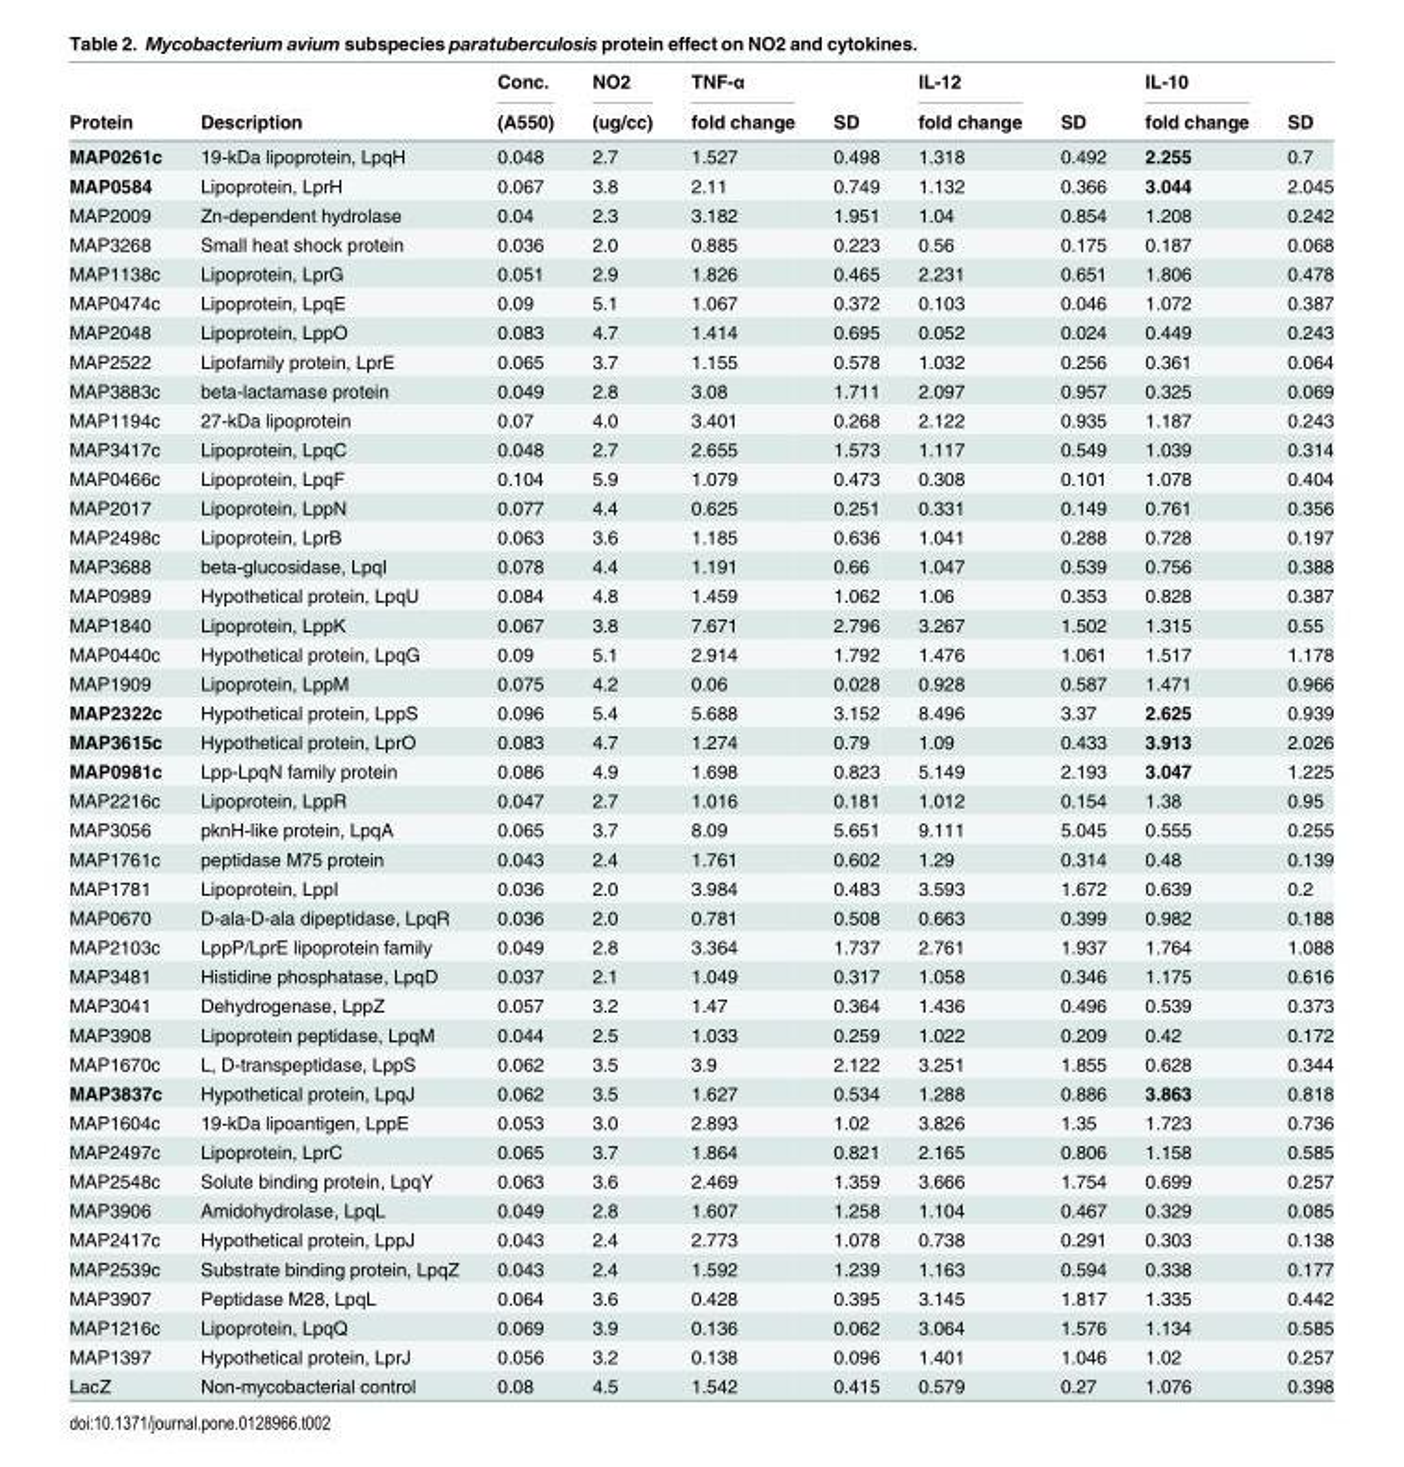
<table><thead><tr><td rowspan="2">Protein</td><td rowspan="2">Description</td><td rowspan="2">Conc. (A550)</td><td rowspan="2">NO2 (ug/cc)</td><td rowspan="2">TNF-α fold change</td><td rowspan="2">SD</td><td rowspan="2">IL-12 fold change</td><td rowspan="2">SD</td><td rowspan="2">IL-10 fold change</td><td rowspan="2">SD</td></tr><tr></tr></thead><tbody><tr><td>MAP0261c</td><td>19-kDa lipoprotein, LpqH</td><td>0.048</td><td>2.7</td><td>1.527</td><td>0.498</td><td>1.318</td><td>0.492</td><td>2.255</td><td>0.7</td></tr><tr><td>MAP0584</td><td>Lipoprotein, LprH</td><td>0.067</td><td>3.8</td><td>2.11</td><td>0.749</td><td>1.132</td><td>0.366</td><td>3.044</td><td>2.045</td></tr><tr><td>MAP2009</td><td>Zn-dependent hydrolase</td><td>0.04</td><td>2.3</td><td>3.182</td><td>1.951</td><td>1.04</td><td>0.854</td><td>1.208</td><td>0.242</td></tr><tr><td>MAP3268</td><td>Small heat shock protein</td><td>0.036</td><td>2.0</td><td>0.885</td><td>0.223</td><td>0.56</td><td>0.175</td><td>0.187</td><td>0.068</td></tr><tr><td>MAP1138c</td><td>Lipoprotein, LprG</td><td>0.051</td><td>2.9</td><td>1.826</td><td>0.465</td><td>2.231</td><td>0.651</td><td>1.806</td><td>0.478</td></tr><tr><td>MAP0474c</td><td>Lipoprotein, LpqE</td><td>0.09</td><td>5.1</td><td>1.067</td><td>0.372</td><td>0.103</td><td>0.046</td><td>1.072</td><td>0.387</td></tr><tr><td>MAP2048</td><td>Lipoprotein, LppO</td><td>0.083</td><td>4.7</td><td>1.414</td><td>0.695</td><td>0.052</td><td>0.024</td><td>0.449</td><td>0.243</td></tr><tr><td>MAP2522</td><td>Lipofamily protein, LprE</td><td>0.065</td><td>3.7</td><td>1.155</td><td>0.578</td><td>1.032</td><td>0.256</td><td>0.361</td><td>0.064</td></tr><tr><td>MAP3883c</td><td>beta-lactamase protein</td><td>0.049</td><td>2.8</td><td>3.08</td><td>1.711</td><td>2.097</td><td>0.957</td><td>0.325</td><td>0.069</td></tr><tr><td>MAP1194c</td><td>27-kDa lipoprotein</td><td>0.07</td><td>4.0</td><td>3.401</td><td>0.268</td><td>2.122</td><td>0.935</td><td>1.187</td><td>0.243</td></tr><tr><td>MAP3417c</td><td>Lipoprotein, LpqC</td><td>0.048</td><td>2.7</td><td>2.655</td><td>1.573</td><td>1.117</td><td>0.549</td><td>1.039</td><td>0.314</td></tr><tr><td>MAP0466c</td><td>Lipoprotein, LpqF</td><td>0.104</td><td>5.9</td><td>1.079</td><td>0.473</td><td>0.308</td><td>0.101</td><td>1.078</td><td>0.404</td></tr><tr><td>MAP2017</td><td>Lipoprotein, LppN</td><td>0.077</td><td>4.4</td><td>0.625</td><td>0.251</td><td>0.331</td><td>0.149</td><td>0.761</td><td>0.356</td></tr><tr><td>MAP2498c</td><td>Lipoprotein, LprB</td><td>0.063</td><td>3.6</td><td>1.185</td><td>0.636</td><td>1.041</td><td>0.288</td><td>0.728</td><td>0.197</td></tr><tr><td>MAP3688</td><td>beta-glucosidase, LpqI</td><td>0.078</td><td>4.4</td><td>1.191</td><td>0.66</td><td>1.047</td><td>0.539</td><td>0.756</td><td>0.388</td></tr><tr><td>MAP0989</td><td>Hypothetical protein, LpqU</td><td>0.084</td><td>4.8</td><td>1.459</td><td>1.062</td><td>1.06</td><td>0.353</td><td>0.828</td><td>0.387</td></tr><tr><td>MAP1840</td><td>Lipoprotein, LppK</td><td>0.067</td><td>3.8</td><td>7.671</td><td>2.796</td><td>3.267</td><td>1.502</td><td>1.315</td><td>0.55</td></tr><tr><td>MAP0440c</td><td>Hypothetical protein, LpqG</td><td>0.09</td><td>5.1</td><td>2.914</td><td>1.792</td><td>1.476</td><td>1.061</td><td>1.517</td><td>1.178</td></tr><tr><td>MAP1909</td><td>Lipoprotein, LppM</td><td>0.075</td><td>4.2</td><td>0.06</td><td>0.028</td><td>0.928</td><td>0.587</td><td>1.471</td><td>0.966</td></tr><tr><td>MAP2322c</td><td>Hypothetical protein, LppS</td><td>0.096</td><td>5.4</td><td>5.688</td><td>3.152</td><td>8.496</td><td>3.37</td><td>2.625</td><td>0.939</td></tr><tr><td>MAP3615c</td><td>Hypothetical protein, LprO</td><td>0.083</td><td>4.7</td><td>1.274</td><td>0.79</td><td>1.09</td><td>0.433</td><td>3.913</td><td>2.026</td></tr><tr><td>MAP0981c</td><td>Lpp-LpqN family protein</td><td>0.086</td><td>4.9</td><td>1.698</td><td>0.823</td><td>5.149</td><td>2.193</td><td>3.047</td><td>1.225</td></tr><tr><td>MAP2216c</td><td>Lipoprotein, LppR</td><td>0.047</td><td>2.7</td><td>1.016</td><td>0.181</td><td>1.012</td><td>0.154</td><td>1.38</td><td>0.95</td></tr><tr><td>MAP3056</td><td>pknH-like protein, LpqA</td><td>0.065</td><td>3.7</td><td>8.09</td><td>5.651</td><td>9.111</td><td>5.045</td><td>0.555</td><td>0.255</td></tr><tr><td>MAP1761c</td><td>peptidase M75 protein</td><td>0.043</td><td>2.4</td><td>1.761</td><td>0.602</td><td>1.29</td><td>0.314</td><td>0.48</td><td>0.139</td></tr><tr><td>MAP1781</td><td>Lipoprotein, LppI</td><td>0.036</td><td>2.0</td><td>3.984</td><td>0.483</td><td>3.593</td><td>1.672</td><td>0.639</td><td>0.2</td></tr><tr><td>MAP0670</td><td>D-ala-D-ala dipeptidase, LpqR</td><td>0.036</td><td>2.0</td><td>0.781</td><td>0.508</td><td>0.663</td><td>0.399</td><td>0.982</td><td>0.188</td></tr><tr><td>MAP2103c</td><td>LppP/LprE lipoprotein family</td><td>0.049</td><td>2.8</td><td>3.364</td><td>1.737</td><td>2.761</td><td>1.937</td><td>1.764</td><td>1.088</td></tr><tr><td>MAP3481</td><td>Histidine phosphatase, LpqD</td><td>0.037</td><td>2.1</td><td>1.049</td><td>0.317</td><td>1.058</td><td>0.346</td><td>1.175</td><td>0.616</td></tr><tr><td>MAP3041</td><td>Dehydrogenase, LppZ</td><td>0.057</td><td>3.2</td><td>1.47</td><td>0.364</td><td>1.436</td><td>0.496</td><td>0.539</td><td>0.373</td></tr><tr><td>MAP3908</td><td>Lipoprotein peptidase, LpqM</td><td>0.044</td><td>2.5</td><td>1.033</td><td>0.259</td><td>1.022</td><td>0.209</td><td>0.42</td><td>0.172</td></tr><tr><td>MAP1670c</td><td>L, D-transpeptidase, LppS</td><td>0.062</td><td>3.5</td><td>3.9</td><td>2.122</td><td>3.251</td><td>1.855</td><td>0.628</td><td>0.344</td></tr><tr><td>MAP3837c</td><td>Hypothetical protein, LpqJ</td><td>0.062</td><td>3.5</td><td>1.627</td><td>0.534</td><td>1.288</td><td>0.886</td><td>3.863</td><td>0.818</td></tr><tr><td>MAP1604c</td><td>19-kDa lipoantigen, LppE</td><td>0.053</td><td>3.0</td><td>2.893</td><td>1.02</td><td>3.826</td><td>1.35</td><td>1.723</td><td>0.736</td></tr><tr><td>MAP2497c</td><td>Lipoprotein, LprC</td><td>0.065</td><td>3.7</td><td>1.864</td><td>0.821</td><td>2.165</td><td>0.806</td><td>1.158</td><td>0.585</td></tr><tr><td>MAP2548c</td><td>Solute binding protein, LpqY</td><td>0.063</td><td>3.6</td><td>2.469</td><td>1.359</td><td>3.666</td><td>1.754</td><td>0.699</td><td>0.257</td></tr><tr><td>MAP3906</td><td>Amidohydrolase, LpqL</td><td>0.049</td><td>2.8</td><td>1.607</td><td>1.258</td><td>1.104</td><td>0.467</td><td>0.329</td><td>0.085</td></tr><tr><td>MAP2417c</td><td>Hypothetical protein, LppJ</td><td>0.043</td><td>2.4</td><td>2.773</td><td>1.078</td><td>0.738</td><td>0.291</td><td>0.303</td><td>0.138</td></tr><tr><td>MAP2539c</td><td>Substrate binding protein, LpqZ</td><td>0.043</td><td>2.4</td><td>1.592</td><td>1.239</td><td>1.163</td><td>0.594</td><td>0.338</td><td>0.177</td></tr><tr><td>MAP3907</td><td>Peptidase M28, LpqL</td><td>0.064</td><td>3.6</td><td>0.428</td><td>0.395</td><td>3.145</td><td>1.817</td><td>1.335</td><td>0.442</td></tr><tr><td>MAP1216c</td><td>Lipoprotein, LpqQ</td><td>0.069</td><td>3.9</td><td>0.136</td><td>0.062</td><td>3.064</td><td>1.576</td><td>1.134</td><td>0.585</td></tr><tr><td>MAP1397</td><td>Hypothetical protein, LprJ</td><td>0.056</td><td>3.2</td><td>0.138</td><td>0.096</td><td>1.401</td><td>1.046</td><td>1.02</td><td>0.257</td></tr><tr><td>LacZ</td><td>Non-mycobacterial control</td><td>0.08</td><td>4.5</td><td>1.542</td><td>0.415</td><td>0.579</td><td>0.27</td><td>1.076</td><td>0.398</td></tr></tbody></table>